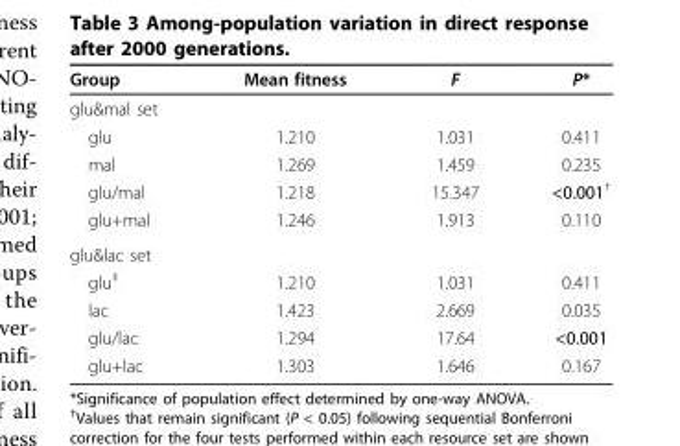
<table><thead><tr><td>Group</td><td>Mean fitness</td><td>F</td><td>P*</td></tr></thead><tbody><tr><td colspan="4">glu&amp;mal set</td></tr><tr><td>glu</td><td>1.210</td><td>1.031</td><td>0.411</td></tr><tr><td>mal</td><td>1.269</td><td>1.459</td><td>0.235</td></tr><tr><td>glu/mal</td><td>1.218</td><td>15.347</td><td>&lt;0.001<sup>†</sup></td></tr><tr><td>glu+mal</td><td>1.246</td><td>1.913</td><td>0.110</td></tr><tr><td colspan="4">glu&amp;lac set</td></tr><tr><td>glu<sup>‡</sup></td><td>1.210</td><td>1.031</td><td>0.411</td></tr><tr><td>lac</td><td>1.423</td><td>2.669</td><td>0.035</td></tr><tr><td>glu/lac</td><td>1.294</td><td>17.64</td><td>&lt;0.001</td></tr><tr><td>glu+lac</td><td>1.303</td><td>1.646</td><td>0.167</td></tr></tbody></table>